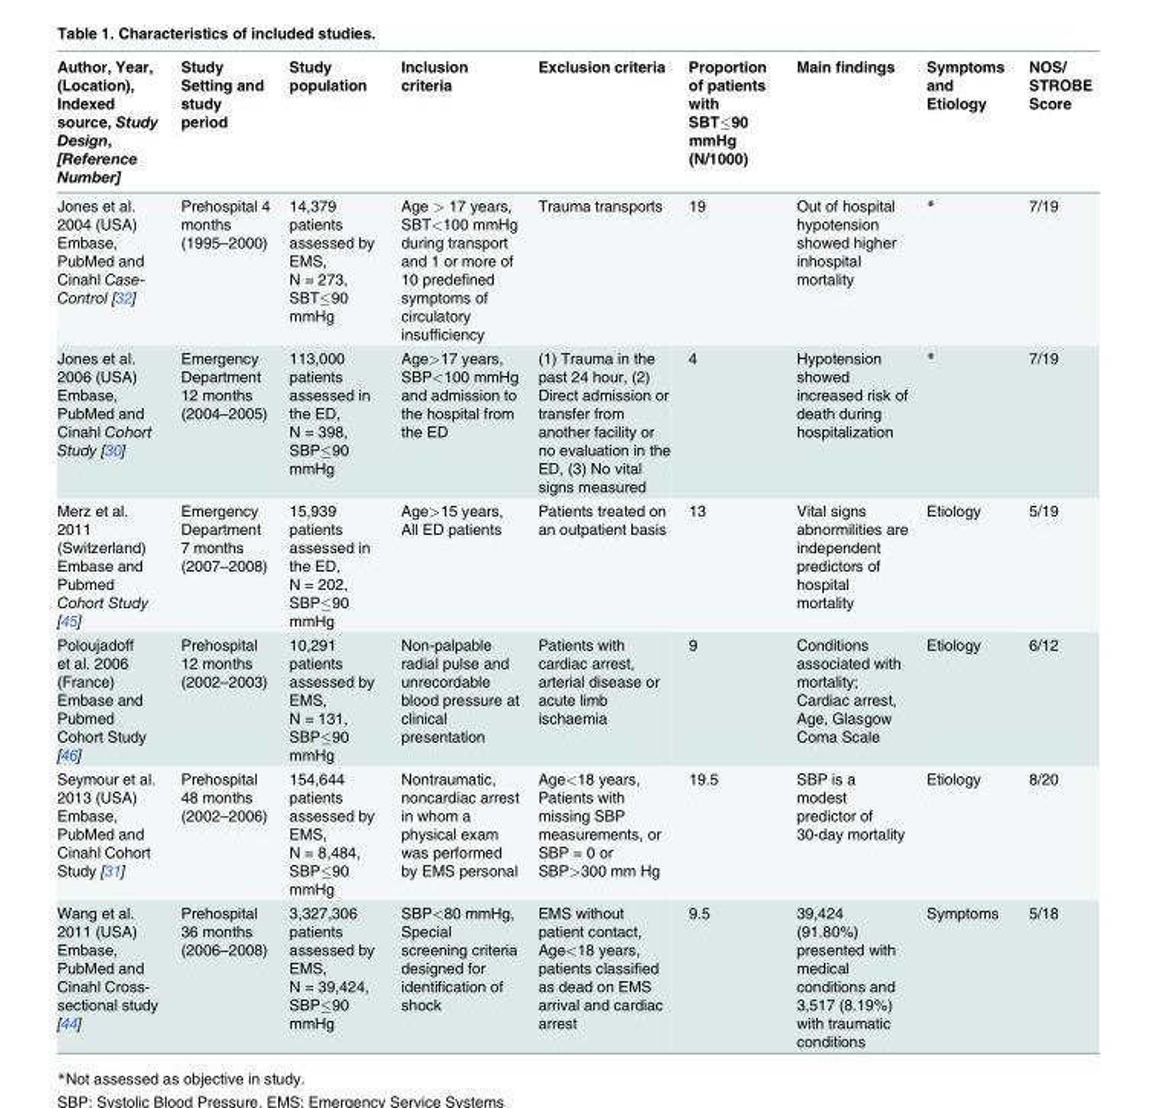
<table><thead><tr><td>Author, Year, (Location), Indexed source, Study Design, [Reference Number]</td><td>Study Setting and study period</td><td>Study population</td><td>Inclusion criteria</td><td>Exclusion criteria</td><td>Proportion of patients with SBT≤90 mmHg (N/1000)</td><td>Main findings</td><td>Symptoms and Etiology</td><td>NOS/ STROBE Score</td></tr></thead><tbody><tr><td>Jones et al. 2004 (USA) Embase, PubMed and Cinahl Case- Control [32]</td><td>Prehospital 4 months (1995–2000)</td><td>14,379 patients assessed by EMS, N = 273, SBT≤90 mmHg</td><td>Age &gt; 17 years, SBT&lt;100 mmHg during transport and 1 or more of 10 predefined symptoms of circulatory insufficiency</td><td>Trauma transports</td><td>19</td><td>Out of hospital hypotension showed higher inhospital mortality</td><td>*</td><td>7/19</td></tr><tr><td>Jones et al. 2006 (USA) Embase, PubMed and Cinahl Cohort Study [30]</td><td>Emergency Department 12 months (2004–2005)</td><td>113,000 patients assessed in the ED, N = 398, SBP≤90 mmHg</td><td>Age&gt;17 years, SBP&lt;100 mmHg and admission to the hospital from the ED</td><td>(1) Trauma in the past 24 hour, (2) Direct admission or transfer from another facility or no evaluation in the ED, (3) No vital signs measured</td><td>4</td><td>Hypotension showed increased risk of death during hospitalization</td><td>*</td><td>7/19</td></tr><tr><td>Merz et al. 2011 (Switzerland) Embase and Pubmed Cohort Study [45]</td><td>Emergency Department 7 months (2007–2008)</td><td>15,939 patients assessed in the ED, N = 202, SBP≤90 mmHg</td><td>Age&gt;15 years, All ED patients</td><td>Patients treated on an outpatient basis</td><td>13</td><td>Vital signs abnormilities are independent predictors of hospital mortality</td><td>Etiology</td><td>5/19</td></tr><tr><td>Poloujadoff et al. 2006 (France) Embase and Pubmed Cohort Study [46]</td><td>Prehospital 12 months (2002–2003)</td><td>10,291 patients assessed by EMS, N = 131, SBP≤90 mmHg</td><td>Non-palpable radial pulse and unrecordable blood pressure at clinical presentation</td><td>Patients with cardiac arrest, arterial disease or acute limb ischaemia</td><td>9</td><td>Conditions associated with mortality; Cardiac arrest, Age, Glasgow Coma Scale</td><td>Etiology</td><td>6/12</td></tr><tr><td>Seymour et al. 2013 (USA) Embase, PubMed and Cinahl Cohort Study [31]</td><td>Prehospital 48 months (2002–2006)</td><td>154,644 patients assessed by EMS, N = 8,484, SBP≤90 mmHg</td><td>Nontraumatic, noncardiac arrest in whom a physical exam was performed by EMS personal</td><td>Age&lt;18 years, Patients with missing SBP measurements, or SBP = 0 or SBP&gt;300 mm Hg</td><td>19.5</td><td>SBP is a modest predictor of 30-day mortality</td><td>Etiology</td><td>8/20</td></tr><tr><td>Wang et al. 2011 (USA) Embase, PubMed and Cinahl Cross- sectional study [44]</td><td>Prehospital 36 months (2006–2008)</td><td>3,327,306 patients assessed by EMS, N = 39,424, SBP≤90 mmHg</td><td>SBP&lt;80 mmHg, Special screening criteria designed for identification of shock</td><td>EMS without patient contact, Age&lt;18 years, patients classified as dead on EMS arrival and cardiac arrest</td><td>9.5</td><td>39,424 (91.80%) presented with medical conditions and 3,517 (8.19%) with traumatic conditions</td><td>Symptoms</td><td>5/18</td></tr></tbody></table>